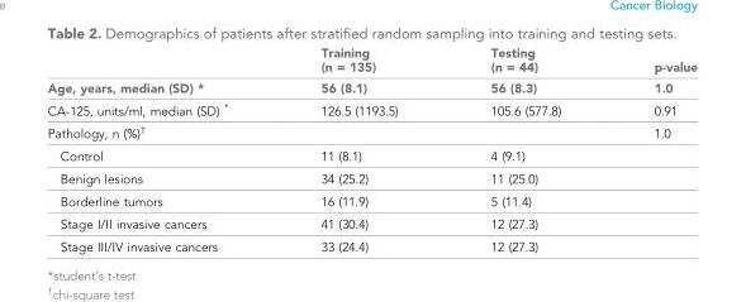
<table><thead><tr><td rowspan="2">Age, years, median (SD) *</td><td rowspan="2">Training (n = 135) 56 (8.1)</td><td rowspan="2">Testing (n = 44) 56 (8.3)</td><td rowspan="2">p-value 1.0</td></tr><tr></tr></thead><tbody><tr><td>CA-125, units/ml, median (SD) *</td><td>126.5 (1193.5)</td><td>105.6 (577.8)</td><td>0.91</td></tr><tr><td>Pathology, n (%)<sup>†</sup></td><td></td><td></td><td>1.0</td></tr><tr><td>Control</td><td>11 (8.1)</td><td>4 (9.1)</td><td></td></tr><tr><td>Benign lesions</td><td>34 (25.2)</td><td>11 (25.0)</td><td></td></tr><tr><td>Borderline tumors</td><td>16 (11.9)</td><td>5 (11.4)</td><td></td></tr><tr><td>Stage I/II invasive cancers</td><td>41 (30.4)</td><td>12 (27.3)</td><td></td></tr><tr><td>Stage III/IV invasive cancers</td><td>33 (24.4)</td><td>12 (27.3)</td><td></td></tr></tbody></table>